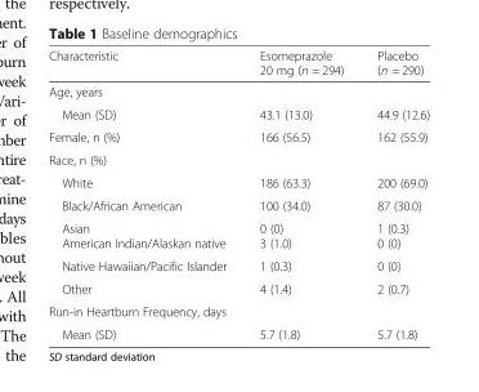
<table><thead><tr><td>Characteristic</td><td>Esomeprazole 20 mg (n = 294)</td><td>Placebo (n = 290)</td></tr></thead><tbody><tr><td colspan="3">Age, years</td></tr><tr><td>Mean (SD)</td><td>43.1 (13.0)</td><td>44.9 (12.6)</td></tr><tr><td>Female, n (%)</td><td>166 (56.5)</td><td>162 (55.9)</td></tr><tr><td colspan="3">Race, n (%)</td></tr><tr><td>White</td><td>186 (63.3)</td><td>200 (69.0)</td></tr><tr><td>Black/African American</td><td>100 (34.0)</td><td>87 (30.0)</td></tr><tr><td>Asian American Indian/Alaskan native</td><td>0 (0) 3 (1.0)</td><td>1 (0.3) 0 (0)</td></tr><tr><td>Native Hawaiian/Pacific Islander</td><td>1 (0.3)</td><td>0 (0)</td></tr><tr><td>Other</td><td>4 (1.4)</td><td>2 (0.7)</td></tr><tr><td colspan="3">Run-in Heartburn Frequency, days</td></tr><tr><td>Mean (SD)</td><td>5.7 (1.8)</td><td>5.7 (1.8)</td></tr></tbody></table>